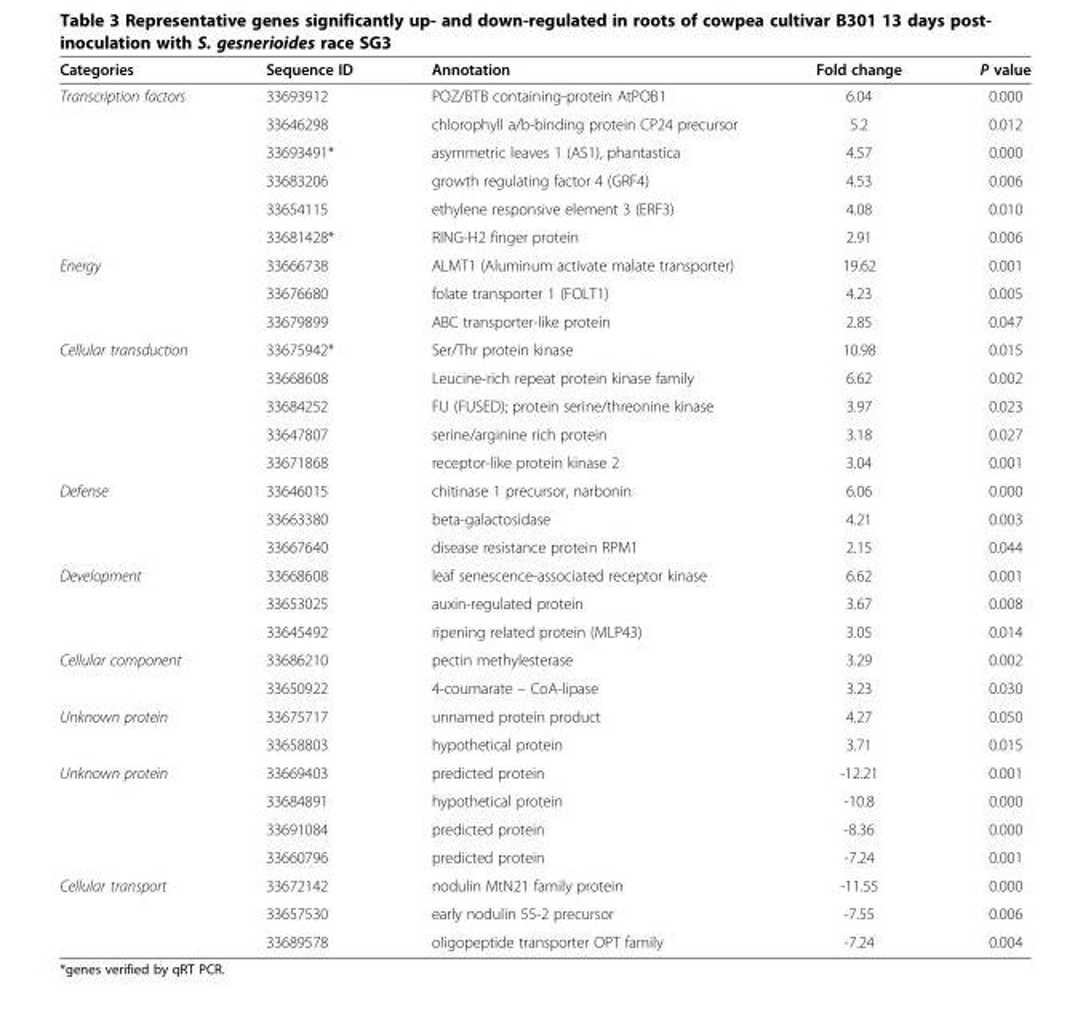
<table><thead><tr><td>Categories</td><td>Sequence ID</td><td>Annotation</td><td>Fold change</td><td>P value</td></tr></thead><tbody><tr><td rowspan="6">Transcription factors</td><td>33693912</td><td>POZ/BTB containing-protein AtPOB1</td><td>6.04</td><td>0.000</td></tr><tr><td>33646298</td><td>chlorophyll a/b-binding protein CP24 precursor</td><td>5.2</td><td>0.012</td></tr><tr><td>33693491*</td><td>asymmetric leaves 1 (AS1), phantastica</td><td>4.57</td><td>0.000</td></tr><tr><td>33683206</td><td>growth regulating factor 4 (GRF4)</td><td>4.53</td><td>0.006</td></tr><tr><td>33654115</td><td>ethylene responsive element 3 (ERF3)</td><td>4.08</td><td>0.010</td></tr><tr><td>33681428*</td><td>RING-H2 finger protein</td><td>2.91</td><td>0.006</td></tr><tr><td rowspan="3">Energy</td><td>33666738</td><td>ALMT1 (Aluminum activate malate transporter)</td><td>19.62</td><td>0.001</td></tr><tr><td>33676680</td><td>folate transporter 1 (FOLT1)</td><td>4.23</td><td>0.005</td></tr><tr><td>33679899</td><td>ABC transporter-like protein</td><td>2.85</td><td>0.047</td></tr><tr><td rowspan="5">Cellular transduction</td><td>33675942*</td><td>Ser/Thr protein kinase</td><td>10.98</td><td>0.015</td></tr><tr><td>33668608</td><td>Leucine-rich repeat protein kinase family</td><td>6.62</td><td>0.002</td></tr><tr><td>33684252</td><td>FU (FUSED); protein serine/threonine kinase</td><td>3.97</td><td>0.023</td></tr><tr><td>33647807</td><td>serine/arginine rich protein</td><td>3.18</td><td>0.027</td></tr><tr><td>33671868</td><td>receptor-like protein kinase 2</td><td>3.04</td><td>0.001</td></tr><tr><td rowspan="3">Defense</td><td>33646015</td><td>chitinase 1 precursor, narbonin</td><td>6.06</td><td>0.000</td></tr><tr><td>33663380</td><td>beta-galactosidase</td><td>4.21</td><td>0.003</td></tr><tr><td>33667640</td><td>disease resistance protein RPM1</td><td>2.15</td><td>0.044</td></tr><tr><td rowspan="3">Development</td><td>33668608</td><td>leaf senescence-associated receptor kinase</td><td>6.62</td><td>0.001</td></tr><tr><td>33653025</td><td>auxin-regulated protein</td><td>3.67</td><td>0.008</td></tr><tr><td>33645492</td><td>ripening related protein (MLP43)</td><td>3.05</td><td>0.014</td></tr><tr><td rowspan="2">Cellular component</td><td>33686210</td><td>pectin methylesterase</td><td>3.29</td><td>0.002</td></tr><tr><td>33650922</td><td>4-coumarate – CoA-lipase</td><td>3.23</td><td>0.030</td></tr><tr><td rowspan="2">Unknown protein</td><td>33675717</td><td>unnamed protein product</td><td>4.27</td><td>0.050</td></tr><tr><td>33658803</td><td>hypothetical protein</td><td>3.71</td><td>0.015</td></tr><tr><td rowspan="4">Unknown protein</td><td>33669403</td><td>predicted protein</td><td>-12.21</td><td>0.001</td></tr><tr><td>33684891</td><td>hypothetical protein</td><td>-10.8</td><td>0.000</td></tr><tr><td>33691084</td><td>predicted protein</td><td>-8.36</td><td>0.000</td></tr><tr><td>33660796</td><td>predicted protein</td><td>-7.24</td><td>0.001</td></tr><tr><td rowspan="3">Cellular transport</td><td>33672142</td><td>nodulin MtN21 family protein</td><td>-11.55</td><td>0.000</td></tr><tr><td>33657530</td><td>early nodulin 55-2 precursor</td><td>-7.55</td><td>0.006</td></tr><tr><td>33689578</td><td>oligopeptide transporter OPT family</td><td>-7.24</td><td>0.004</td></tr></tbody></table>